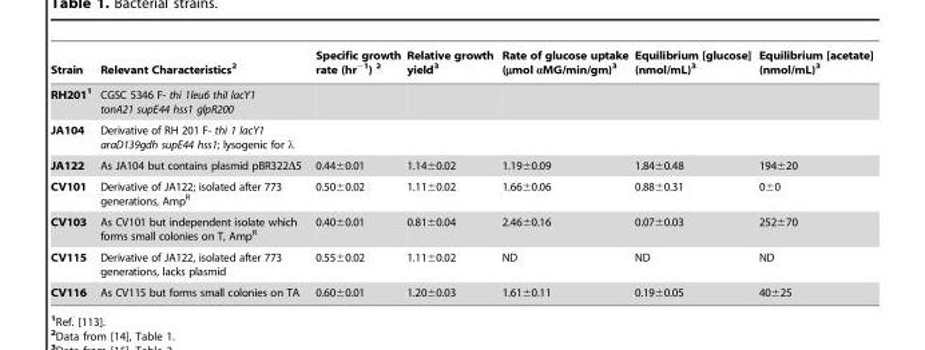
<table><thead><tr><td>Strain</td><td>Relevant Characteristics<sup>2</sup></td><td>Specific growth rate (hr<sup>−1</sup>) 2</td><td>Relative growth yield<sup>3</sup></td><td>Rate of glucose uptake (µmol αMG/min/gm)<sup>3</sup></td><td>Equilibrium [glucose] (nmol/mL)<sup>3</sup></td><td>Equilibrium [acetate] (nmol/mL)<sup>3</sup></td></tr></thead><tbody><tr><td>RH2011</td><td>CGSC 5346 F- thi 1leu6 thiI lacY1 tonA21 supE44 hss1 glpR200</td><td></td><td></td><td></td><td></td><td></td></tr><tr><td>JA104</td><td>Derivative of RH 201 F- thi 1 lacY1 araD139gdh supE44 hss1; lysogenic for λ</td><td></td><td></td><td></td><td></td><td></td></tr><tr><td>JA122</td><td>As JA104 but contains plasmid pBR322Δ5</td><td>0.44±0.01</td><td>1.14±0.02</td><td>1.19±0.09</td><td>1.84±0.48</td><td>194±20</td></tr><tr><td>CV101</td><td>Derivative of JA122; isolated after 773 generations, Amp<sup>R</sup></td><td>0.50±0.02</td><td>1.11±0.02</td><td>1.66±0.06</td><td>0.88±0.31</td><td>0±0</td></tr><tr><td>CV103</td><td>As CV101 but independent isolate which forms small colonies on T, Amp<sup>R</sup></td><td>0.40±0.01</td><td>0.81±0.04</td><td>2.46±0.16</td><td>0.07±0.03</td><td>252±70</td></tr><tr><td>CV115</td><td>Derivative of JA122, isolated after 773 generations, lacks plasmid</td><td>0.55±0.02</td><td>1.11±0.02</td><td>ND</td><td>ND</td><td>ND</td></tr><tr><td>CV116</td><td>As CV115 but forms small colonies on TA</td><td>0.60±0.01</td><td>1.20±0.03</td><td>1.61±0.11</td><td>0.19±0.05</td><td>40±25</td></tr></tbody></table>